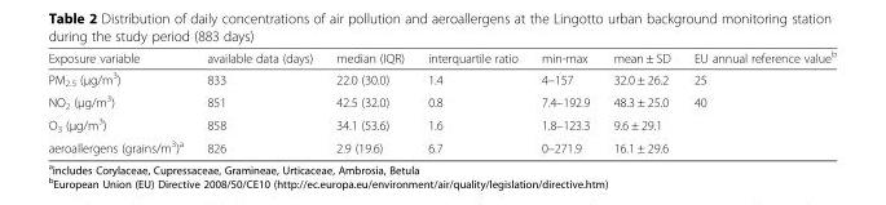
<table><thead><tr><td>Exposure variable</td><td>available data (days)</td><td>median (IQR)</td><td>interquartile ratio</td><td>min-max</td><td>mean ± SD</td><td>EU annual reference value<sup>b</sup></td></tr></thead><tbody><tr><td>PM<sub>2.5</sub> (μg/m<sup>3</sup>)</td><td>833</td><td>22.0 (30.0)</td><td>1.4</td><td>4–157</td><td>32.0 ± 26.2</td><td>25</td></tr><tr><td>NO<sub>2</sub> (μg/m<sup>3</sup>)</td><td>851</td><td>42.5 (32.0)</td><td>0.8</td><td>7.4–192.9</td><td>48.3 ± 25.0</td><td>40</td></tr><tr><td>O<sub>3</sub> (μg/m<sup>3</sup>)</td><td>858</td><td>34.1 (53.6)</td><td>1.6</td><td>1.8–123.3</td><td>9.6 ± 29.1</td><td></td></tr><tr><td>aeroallergens (grains/m<sup>3</sup>)<sup>a</sup></td><td>826</td><td>2.9 (19.6)</td><td>6.7</td><td>0–271.9</td><td>16.1 ± 29.6</td><td></td></tr></tbody></table>